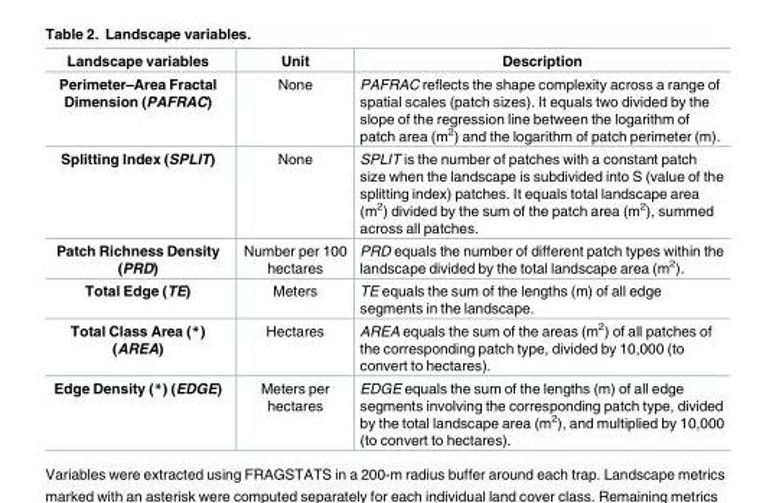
<table><thead><tr><td>Landscape variables</td><td>Unit</td><td>Description</td></tr></thead><tbody><tr><td>Perimeter–Area Fractal Dimension (PAFRAC)</td><td>None</td><td>PAFRAC reflects the shape complexity across a range of spatial scales (patch sizes). It equals two divided by the slope of the regression line between the logarithm of patch area (m<sup>2</sup>) and the logarithm of patch perimeter (m).</td></tr><tr><td>Splitting Index (SPLIT)</td><td>None</td><td>SPLIT is the number of patches with a constant patch size when the landscape is subdivided into S (value of the splitting index) patches. It equals total landscape area (m<sup>2</sup>) divided by the sum of the patch area (m<sup>2</sup>), summed across all patches.</td></tr><tr><td>Patch Richness Density (PRD)</td><td>Number per 100 hectares</td><td>PRD equals the number of different patch types within the landscape divided by the total landscape area (m<sup>2</sup>).</td></tr><tr><td>Total Edge (TE)</td><td>Meters</td><td>TE equals the sum of the lengths (m) of all edge segments in the landscape.</td></tr><tr><td>Total Class Area (*) (AREA)</td><td>Hectares</td><td>AREA equals the sum of the areas (m<sup>2</sup>) of all patches of the corresponding patch type, divided by 10,000 (to convert to hectares).</td></tr><tr><td>Edge Density (*) (EDGE)</td><td>Meters per hectares</td><td>EDGE equals the sum of the lengths (m) of all edge segments involving the corresponding patch type, divided by the total landscape area (m<sup>2</sup>), and multiplied by 10,000 (to convert to hectares).</td></tr></tbody></table>